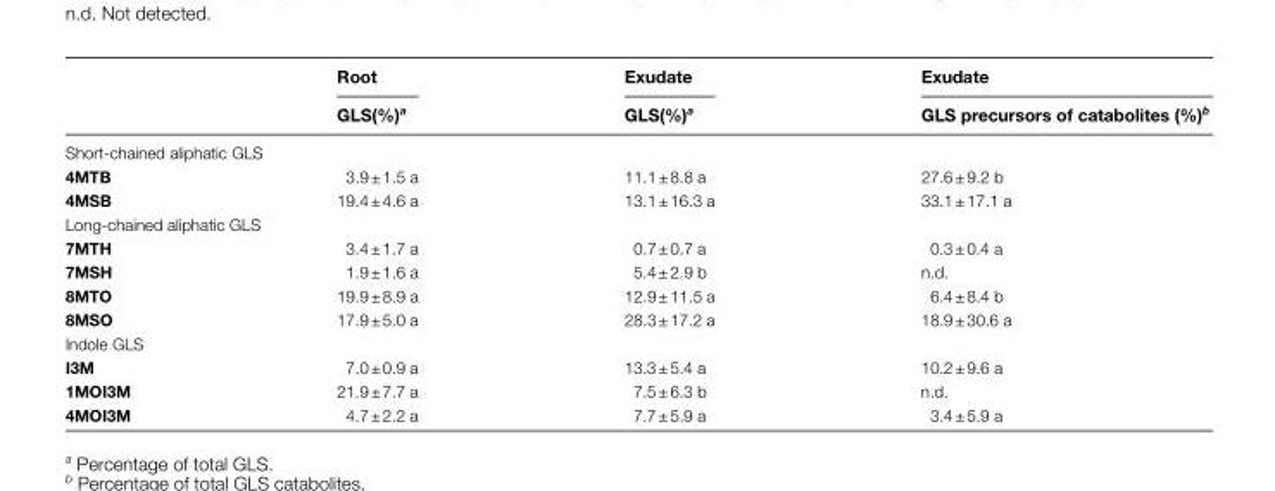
<table><thead><tr><td rowspan="2"></td><td rowspan="2">Root GLS(%)<sup>a</sup></td><td rowspan="2">Exudate GLS(%)<sup>a</sup></td><td rowspan="2">Exudate GLS precursors of catabolites (%)<sup>b</sup></td></tr><tr></tr></thead><tbody><tr><td colspan="4">Short-chained aliphatic GLS</td></tr><tr><td>4MTB</td><td>3.9 ± 1.5 a</td><td>11.1 ± 8.8 a</td><td>27.6 ± 9.2 b</td></tr><tr><td>4MSB</td><td>19.4 ± 4.6 a</td><td>13.1 ± 16.3 a</td><td>33.1 ± 17.1 a</td></tr><tr><td colspan="4">Long-chained aliphatic GLS</td></tr><tr><td>7MTH</td><td>3.4 ± 1.7 a</td><td>0.7 ± 0.7 a</td><td>0.3 ± 0.4 a</td></tr><tr><td>7MSH</td><td>1.9 ± 1.6 a</td><td>5.4 ± 2.9 b</td><td>n.d.</td></tr><tr><td>8MTO</td><td>19.9 ± 8.9 a</td><td>12.9 ± 11.5 a</td><td>6.4 ± 8.4 b</td></tr><tr><td>8MSO</td><td>17.9 ± 5.0 a</td><td>28.3 ± 17.2 a</td><td>18.9 ± 30.6 a</td></tr><tr><td colspan="4">Indole GLS</td></tr><tr><td>I3M</td><td>7.0 ± 0.9 a</td><td>13.3 ± 5.4 a</td><td>10.2 ± 9.6 a</td></tr><tr><td>1MOI3M</td><td>21.9 ± 7.7 a</td><td>7.5 ± 6.3 b</td><td>n.d.</td></tr><tr><td>4MOI3M</td><td>4.7 ± 2.2 a</td><td>7.7 ± 5.9 a</td><td>3.4 ± 5.9 a</td></tr></tbody></table>